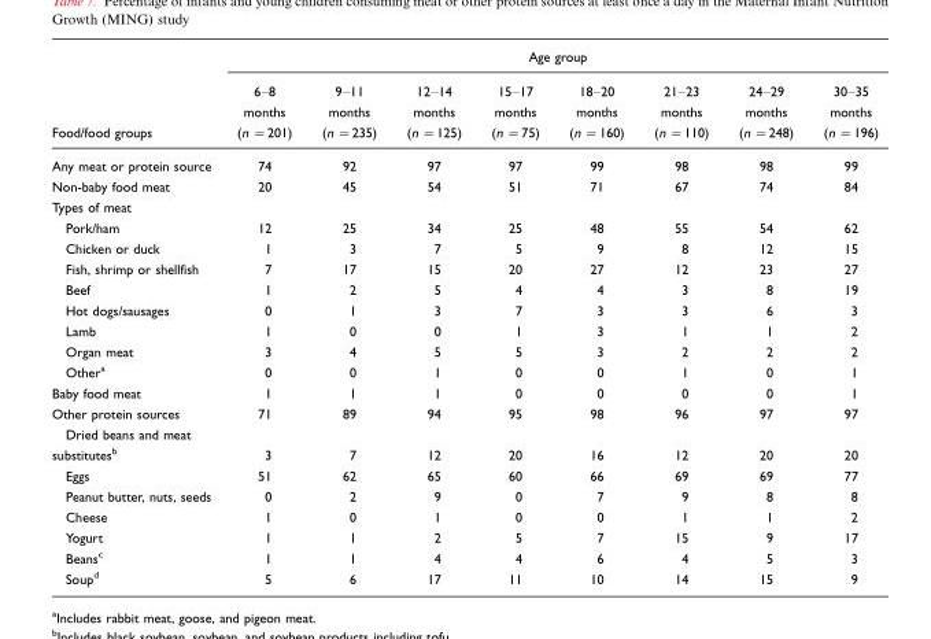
<table><thead><tr><td rowspan="2">Food/food groups</td><td colspan="8">Age group</td></tr><tr><td>6–8 months (n =201)</td><td>9–11 months (n =235)</td><td>12–14 months (n =125)</td><td>15–17 months (n =75)</td><td>18–20 months (n =160)</td><td>21–23 months (n =110)</td><td>24–29 months (n =248)</td><td>30–35 months (n =196)</td></tr></thead><tbody><tr><td>Any meat or protein source</td><td>74</td><td>92</td><td>97</td><td>97</td><td>99</td><td>98</td><td>98</td><td>99</td></tr><tr><td>Non-baby food meat</td><td>20</td><td>45</td><td>54</td><td>51</td><td>71</td><td>67</td><td>74</td><td>84</td></tr><tr><td colspan="9">Types of meat</td></tr><tr><td>Pork/ham</td><td>12</td><td>25</td><td>34</td><td>25</td><td>48</td><td>55</td><td>54</td><td>62</td></tr><tr><td>Chicken or duck</td><td>1</td><td>3</td><td>7</td><td>5</td><td>9</td><td>8</td><td>12</td><td>15</td></tr><tr><td>Fish, shrimp or shellfish</td><td>7</td><td>17</td><td>15</td><td>20</td><td>27</td><td>12</td><td>23</td><td>27</td></tr><tr><td>Beef</td><td>1</td><td>2</td><td>5</td><td>4</td><td>4</td><td>3</td><td>8</td><td>19</td></tr><tr><td>Hot dogs/sausages</td><td>0</td><td>1</td><td>3</td><td>7</td><td>3</td><td>3</td><td>6</td><td>3</td></tr><tr><td>Lamb</td><td>1</td><td>0</td><td>0</td><td>1</td><td>3</td><td>1</td><td>1</td><td>2</td></tr><tr><td>Organ meat</td><td>3</td><td>4</td><td>5</td><td>5</td><td>3</td><td>2</td><td>2</td><td>2</td></tr><tr><td>Other<sup>a</sup></td><td>0</td><td>0</td><td>1</td><td>0</td><td>0</td><td>1</td><td>0</td><td>1</td></tr><tr><td>Baby food meat</td><td>1</td><td>1</td><td>1</td><td>0</td><td>0</td><td>0</td><td>0</td><td>1</td></tr><tr><td>Other protein sources</td><td>71</td><td>89</td><td>94</td><td>95</td><td>98</td><td>96</td><td>97</td><td>97</td></tr><tr><td colspan="9">Dried beans and meat</td></tr><tr><td>substitutes<sup>b</sup></td><td>3</td><td>7</td><td>12</td><td>20</td><td>16</td><td>12</td><td>20</td><td>20</td></tr><tr><td>Eggs</td><td>51</td><td>62</td><td>65</td><td>60</td><td>66</td><td>69</td><td>69</td><td>77</td></tr><tr><td>Peanut butter, nuts, seeds</td><td>0</td><td>2</td><td>9</td><td>0</td><td>7</td><td>9</td><td>8</td><td>8</td></tr><tr><td>Cheese</td><td>1</td><td>0</td><td>1</td><td>0</td><td>0</td><td>1</td><td>1</td><td>2</td></tr><tr><td>Yogurt</td><td>1</td><td>1</td><td>2</td><td>5</td><td>7</td><td>15</td><td>9</td><td>17</td></tr><tr><td>Beans<sup>c</sup></td><td>1</td><td>1</td><td>4</td><td>4</td><td>6</td><td>4</td><td>5</td><td>3</td></tr><tr><td>Soup<sup>d</sup></td><td>5</td><td>6</td><td>17</td><td>11</td><td>10</td><td>14</td><td>15</td><td>9</td></tr></tbody></table>